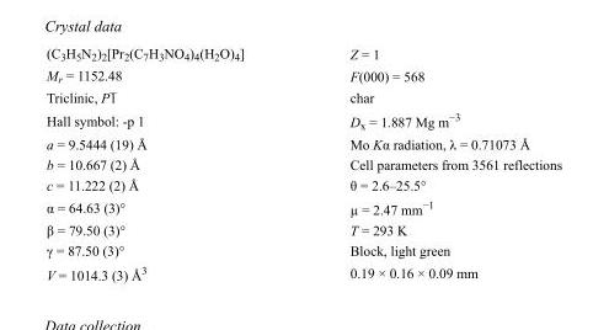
<table><tbody><tr><td>(C<sub>3</sub>H<sub>5</sub>N<sub>2</sub>)<sub>2</sub>[Pr<sub>2</sub>(C<sub>7</sub>H<sub>3</sub>NO<sub>4</sub>)<sub>4</sub>(H<sub>2</sub>O)<sub>4</sub>]</td><td>Z = 1</td></tr><tr><td>M<sub>r</sub> = 1152.48</td><td>F(000) = 568</td></tr><tr><td>Triclinic, P1</td><td>char</td></tr><tr><td>Hall symbol: -p 1</td><td>D<sub>x</sub> = 1.887 Mg m<sup>−3</sup></td></tr><tr><td>a = 9.5444 (19) Å</td><td>Mo Kα radiation, λ = 0.71073 Å</td></tr><tr><td>b = 10.667 (2) Å</td><td>Cell parameters from 3561 reflections</td></tr><tr><td>c = 11.222 (2) Å</td><td>θ = 2.6–25.5°</td></tr><tr><td>α = 64.63 (3)°</td><td>µ = 2.47 mm<sup>−1</sup></td></tr><tr><td>β = 79.50 (3)°</td><td>T = 293 K</td></tr><tr><td>γ = 87.50 (3)°</td><td>Block, light green</td></tr><tr><td>V = 1014.3 (3) Å<sup>3</sup></td><td>0.19 × 0.16 × 0.09 mm</td></tr></tbody></table>